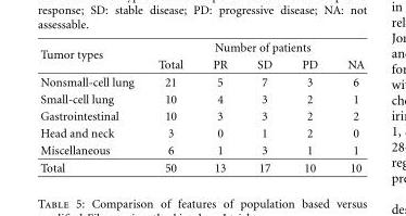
<table><thead><tr><td rowspan="2">Tumor types</td><td colspan="5">Number of patients</td></tr><tr><td>Total</td><td>PR</td><td>SD</td><td>PD</td><td>NA</td></tr></thead><tbody><tr><td>Nonsmall-cell lung</td><td>21</td><td>5</td><td>7</td><td>3</td><td>6</td></tr><tr><td>Small-cell lung</td><td>10</td><td>4</td><td>3</td><td>2</td><td>1</td></tr><tr><td>Gastrointestinal</td><td>10</td><td>3</td><td>3</td><td>2</td><td>2</td></tr><tr><td>Head and neck</td><td>3</td><td>0</td><td>1</td><td>2</td><td>0</td></tr><tr><td>Miscellaneous</td><td>6</td><td>1</td><td>3</td><td>1</td><td>1</td></tr><tr><td>Total</td><td>50</td><td>13</td><td>17</td><td>10</td><td>10</td></tr></tbody></table>